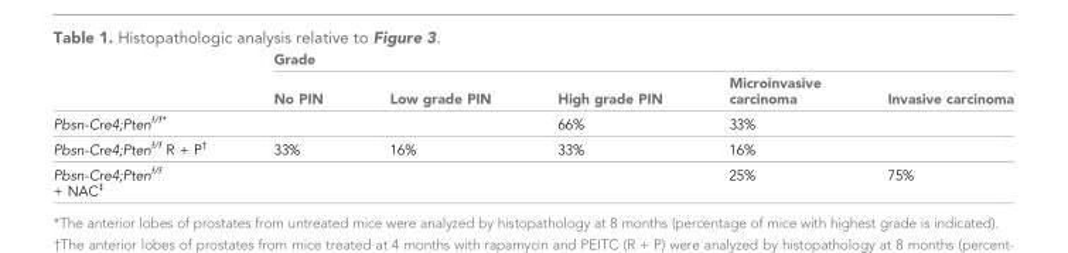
<table><thead><tr><td rowspan="2"></td><td colspan="5">Grade</td></tr><tr><td>No PIN</td><td>Low grade PIN</td><td>High grade PIN</td><td>Microinvasive carcinoma</td><td>Invasive carcinoma</td></tr></thead><tbody><tr><td>Pbsn-Cre4;Pten<sup>f/f*</sup></td><td></td><td></td><td>66%</td><td>33%</td><td></td></tr><tr><td>Pbsn-Cre4;Pten<sup>f/f</sup> R + P<sup>†</sup></td><td>33%</td><td>16%</td><td>33%</td><td>16%</td><td></td></tr><tr><td>Pbsn-Cre4;Pten<sup>f/f</sup> + NAC<sup>‡</sup></td><td></td><td></td><td></td><td>25%</td><td>75%</td></tr></tbody></table>